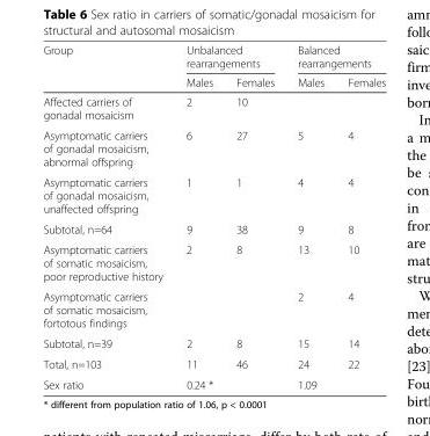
<table><thead><tr><td rowspan="2">Group</td><td colspan="2">Unbalanced rearrangements</td><td colspan="2">Balanced rearrangements</td></tr><tr><td>Males</td><td>Females</td><td>Males</td><td>Females</td></tr></thead><tbody><tr><td>Affected carriers of gonadal mosaicism</td><td>2</td><td>10</td><td></td><td></td></tr><tr><td>Asymptomatic carriers of gonadal mosaicism, abnormal offspring</td><td>6</td><td>27</td><td>5</td><td>4</td></tr><tr><td>Asymptomatic carriers of gonadal mosaicism, unaffected offspring</td><td>1</td><td>1</td><td>4</td><td>4</td></tr><tr><td>Subtotal, n=64</td><td>9</td><td>38</td><td>9</td><td>8</td></tr><tr><td>Asymptomatic carriers of somatic mosaicism, poor reproductive history</td><td>2</td><td>8</td><td>13</td><td>10</td></tr><tr><td>Asymptomatic carriers of somatic mosaicism, fortotous findings</td><td></td><td></td><td>2</td><td>4</td></tr><tr><td>Subtotal, n=39</td><td>2</td><td>8</td><td>15</td><td>14</td></tr><tr><td>Total, n=103</td><td>11</td><td>46</td><td>24</td><td>22</td></tr><tr><td>Sex ratio</td><td colspan="2">0.24 *</td><td colspan="2">1.09</td></tr></tbody></table>